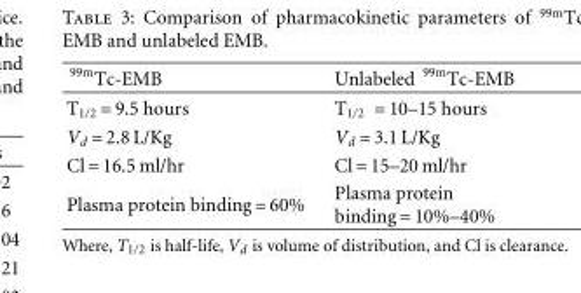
<table><thead><tr><td><sup>99m</sup>Tc-EMB</td><td>Unlabeled <sup>99m</sup>Tc-EMB</td></tr></thead><tbody><tr><td>T<sub>1/2</sub> = 9.5 hours</td><td>T<sub>1/2</sub> = 10–15 hours</td></tr><tr><td>V<sub>d</sub> = 2.8 L/Kg</td><td>V<sub>d</sub> = 3.1 L/Kg</td></tr><tr><td>Cl = 16.5 ml/hr</td><td>Cl = 15–20 ml/hr</td></tr><tr><td>Plasma protein binding = 60%</td><td>Plasma protein binding = 10%–40%</td></tr></tbody></table>